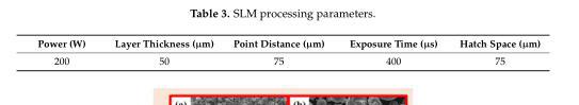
<table><thead><tr><td>Power (W)</td><td>Layer Thickness (µm)</td><td>Point Distance (µm)</td><td>Exposure Time (µs)</td><td>Hatch Space (µm)</td></tr></thead><tbody><tr><td>200</td><td>50</td><td>75</td><td>400</td><td>75</td></tr></tbody></table>